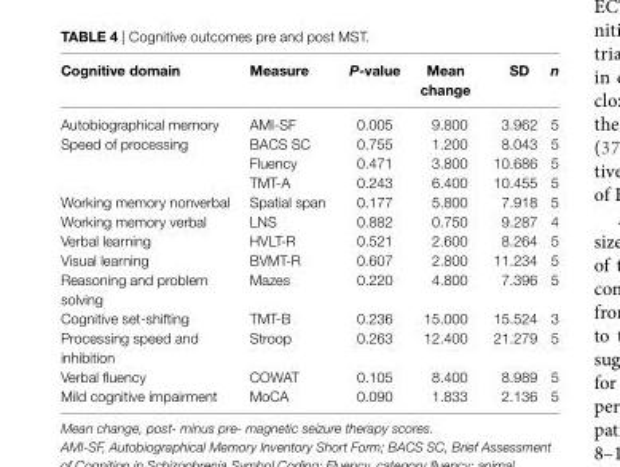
<table><thead><tr><td>Cognitive domain</td><td>Measure</td><td>P-value</td><td>Mean change</td><td>SD</td><td>n</td></tr></thead><tbody><tr><td>Autobiographical memory</td><td>AMI-SF</td><td>0.005</td><td>9.800</td><td>3.962</td><td>5</td></tr><tr><td rowspan="3">Speed of processing</td><td>BACS SC</td><td>0.755</td><td>1.200</td><td>8.043</td><td>5</td></tr><tr><td>Fluency</td><td>0.471</td><td>3.800</td><td>10.686</td><td>5</td></tr><tr><td>TMT-A</td><td>0.243</td><td>6.400</td><td>10.455</td><td>5</td></tr><tr><td>Working memory nonverbal</td><td>Spatial span</td><td>0.177</td><td>5.800</td><td>7.918</td><td>5</td></tr><tr><td>Working memory verbal</td><td>LNS</td><td>0.882</td><td>0.750</td><td>9.287</td><td>4</td></tr><tr><td>Verbal learning</td><td>HVLT-R</td><td>0.521</td><td>2.600</td><td>8.264</td><td>5</td></tr><tr><td>Visual learning</td><td>BVMT-R</td><td>0.607</td><td>2.800</td><td>11.234</td><td>5</td></tr><tr><td>Reasoning and problem solving</td><td>Mazes</td><td>0.220</td><td>4.800</td><td>7.396</td><td>5</td></tr><tr><td>Cognitive set-shifting</td><td>TMT-B</td><td>0.236</td><td>15.000</td><td>15.524</td><td>3</td></tr><tr><td>Processing speed and inhibition</td><td>Stroop</td><td>0.263</td><td>12.400</td><td>21.279</td><td>5</td></tr><tr><td>Verbal fluency</td><td>COWAT</td><td>0.105</td><td>8.400</td><td>8.989</td><td>5</td></tr><tr><td>Mild cognitive impairment</td><td>MoCA</td><td>0.090</td><td>1.833</td><td>2.136</td><td>5</td></tr></tbody></table>